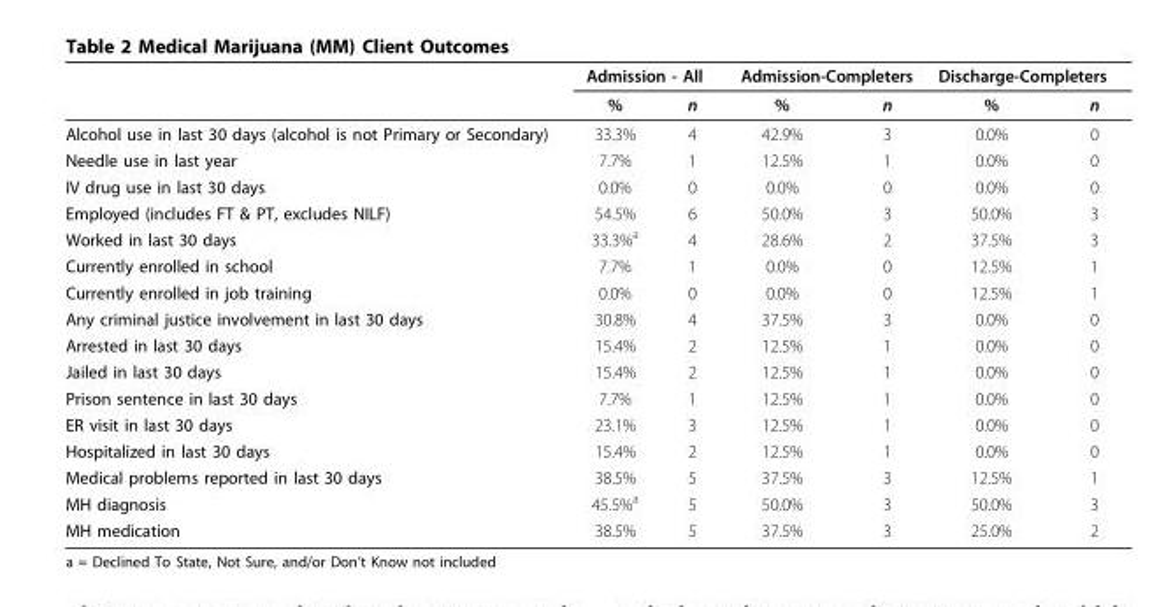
<table><thead><tr><td rowspan="2"></td><td colspan="2">Admission - All</td><td colspan="2">Admission-Completers</td><td colspan="2">Discharge-Completers</td></tr><tr><td>%</td><td>n</td><td>%</td><td>n</td><td>%</td><td>n</td></tr></thead><tbody><tr><td>Alcohol use in last 30 days (alcohol is not Primary or Secondary)</td><td>33.3%</td><td>4</td><td>42.9%</td><td>3</td><td>0.0%</td><td>0</td></tr><tr><td>Needle use in last year</td><td>7.7%</td><td>1</td><td>12.5%</td><td>1</td><td>0.0%</td><td>0</td></tr><tr><td>IV drug use in last 30 days</td><td>0.0%</td><td>0</td><td>0.0%</td><td>0</td><td>0.0%</td><td>0</td></tr><tr><td>Employed (includes FT &amp; PT, excludes NILF)</td><td>54.5%</td><td>6</td><td>50.0%</td><td>3</td><td>50.0%</td><td>3</td></tr><tr><td>Worked in last 30 days</td><td>33.3%<sup>a</sup></td><td>4</td><td>28.6%</td><td>2</td><td>37.5%</td><td>3</td></tr><tr><td>Currently enrolled in school</td><td>7.7%</td><td>1</td><td>0.0%</td><td>0</td><td>12.5%</td><td>1</td></tr><tr><td>Currently enrolled in job training</td><td>0.0%</td><td>0</td><td>0.0%</td><td>0</td><td>12.5%</td><td>1</td></tr><tr><td>Any criminal justice involvement in last 30 days</td><td>30.8%</td><td>4</td><td>37.5%</td><td>3</td><td>0.0%</td><td>0</td></tr><tr><td>Arrested in last 30 days</td><td>15.4%</td><td>2</td><td>12.5%</td><td>1</td><td>0.0%</td><td>0</td></tr><tr><td>Jailed in last 30 days</td><td>15.4%</td><td>2</td><td>12.5%</td><td>1</td><td>0.0%</td><td>0</td></tr><tr><td>Prison sentence in last 30 days</td><td>7.7%</td><td>1</td><td>12.5%</td><td>1</td><td>0.0%</td><td>0</td></tr><tr><td>ER visit in last 30 days</td><td>23.1%</td><td>3</td><td>12.5%</td><td>1</td><td>0.0%</td><td>0</td></tr><tr><td>Hospitalized in last 30 days</td><td>15.4%</td><td>2</td><td>12.5%</td><td>1</td><td>0.0%</td><td>0</td></tr><tr><td>Medical problems reported in last 30 days</td><td>38.5%</td><td>5</td><td>37.5%</td><td>3</td><td>12.5%</td><td>1</td></tr><tr><td>MH diagnosis</td><td>45.5%<sup>a</sup></td><td>5</td><td>50.0%</td><td>3</td><td>50.0%</td><td>3</td></tr><tr><td>MH medication</td><td>38.5%</td><td>5</td><td>37.5%</td><td>3</td><td>25.0%</td><td>2</td></tr></tbody></table>